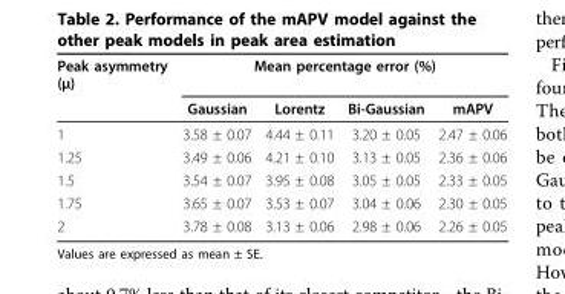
<table><thead><tr><td rowspan="2">Peak asymmetry (μ)</td><td colspan="4">Mean percentage error (%)</td></tr><tr><td>Gaussian</td><td>Lorentz</td><td>Bi-Gaussian</td><td>mAPV</td></tr></thead><tbody><tr><td>1</td><td>3.58 ± 0.07</td><td>4.44 ± 0.11</td><td>3.20 ± 0.05</td><td>2.47 ± 0.06</td></tr><tr><td>1.25</td><td>3.49 ± 0.06</td><td>4.21 ± 0.10</td><td>3.13 ± 0.05</td><td>2.36 ± 0.06</td></tr><tr><td>1.5</td><td>3.54 ± 0.07</td><td>3.95 ± 0.08</td><td>3.05 ± 0.05</td><td>2.33 ± 0.05</td></tr><tr><td>1.75</td><td>3.65 ± 0.07</td><td>3.53 ± 0.07</td><td>3.04 ± 0.06</td><td>2.30 ± 0.05</td></tr><tr><td>2</td><td>3.78 ± 0.08</td><td>3.13 ± 0.06</td><td>2.98 ± 0.06</td><td>2.26 ± 0.05</td></tr></tbody></table>